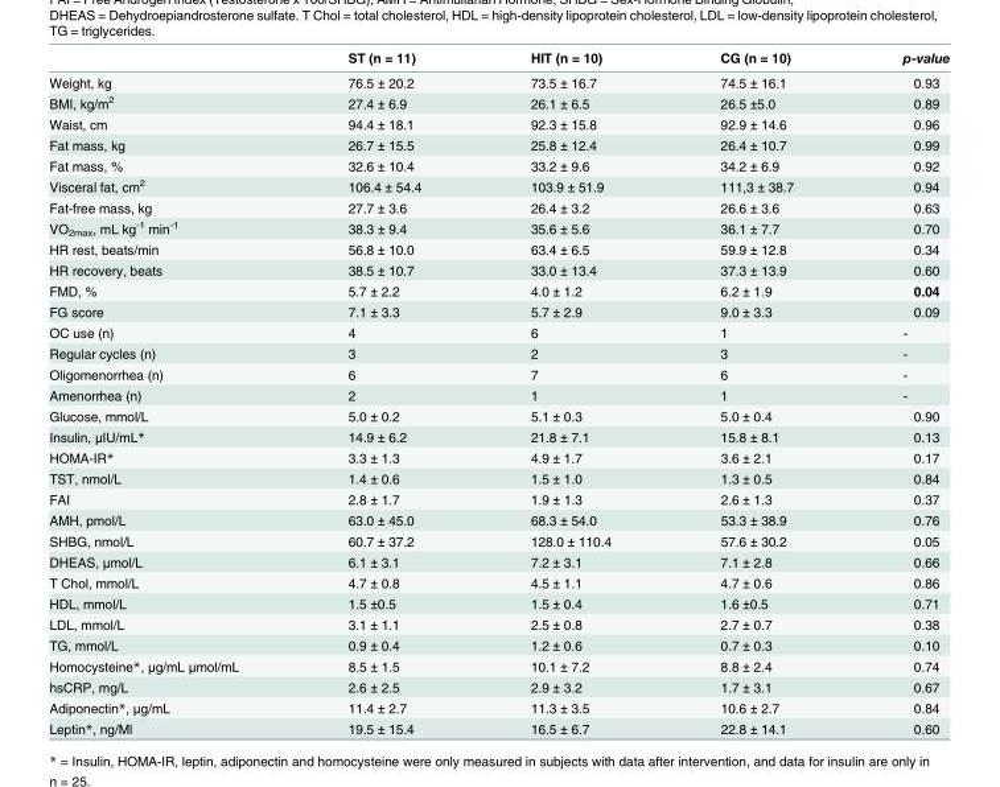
<table><thead><tr><td></td><td>ST (n = 11)</td><td>HIT (n = 10)</td><td>CG (n = 10)</td><td>p-value</td></tr></thead><tbody><tr><td>Weight, kg</td><td>76.5 ± 20.2</td><td>73.5 ± 16.7</td><td>74.5 ± 16.1</td><td>0.93</td></tr><tr><td>BMI, kg/m<sup>2</sup></td><td>27.4 ± 6.9</td><td>26.1 ± 6.5</td><td>26.5 ±5.0</td><td>0.89</td></tr><tr><td>Waist, cm</td><td>94.4 ± 18.1</td><td>92.3 ± 15.8</td><td>92.9 ± 14.6</td><td>0.96</td></tr><tr><td>Fat mass, kg</td><td>26.7 ± 15.5</td><td>25.8 ± 12.4</td><td>26.4 ± 10.7</td><td>0.99</td></tr><tr><td>Fat mass, %</td><td>32.6 ± 10.4</td><td>33.2 ± 9.6</td><td>34.2 ± 6.9</td><td>0.92</td></tr><tr><td>Visceral fat, cm<sup>2</sup></td><td>106.4 ± 54.4</td><td>103.9 ± 51.9</td><td>111,3 ± 38.7</td><td>0.94</td></tr><tr><td>Fat-free mass, kg</td><td>27.7 ± 3.6</td><td>26.4 ± 3.2</td><td>26.6 ± 3.6</td><td>0.63</td></tr><tr><td>VO<sub>2max</sub>, mL kg<sup>-1</sup> min<sup>-1</sup></td><td>38.3 ± 9.4</td><td>35.6 ± 5.6</td><td>36.1 ± 7.7</td><td>0.70</td></tr><tr><td>HR rest, beats/min</td><td>56.8 ± 10.0</td><td>63.4 ± 6.5</td><td>59.9 ± 12.8</td><td>0.34</td></tr><tr><td>HR recovery, beats</td><td>38.5 ± 10.7</td><td>33.0 ± 13.4</td><td>37.3 ± 13.9</td><td>0.60</td></tr><tr><td>FMD, %</td><td>5.7 ± 2.2</td><td>4.0 ± 1.2</td><td>6.2 ± 1.9</td><td>0.04</td></tr><tr><td>FG score</td><td>7.1 ± 3.3</td><td>5.7 ± 2.9</td><td>9.0 ± 3.3</td><td>0.09</td></tr><tr><td>OC use (n)</td><td>4</td><td>6</td><td>1</td><td>-</td></tr><tr><td>Regular cycles (n)</td><td>3</td><td>2</td><td>3</td><td>-</td></tr><tr><td>Oligomenorrhea (n)</td><td>6</td><td>7</td><td>6</td><td>-</td></tr><tr><td>Amenorrhea (n)</td><td>2</td><td>1</td><td>1</td><td>-</td></tr><tr><td>Glucose, mmol/L</td><td>5.0 ± 0.2</td><td>5.1 ± 0.3</td><td>5.0 ± 0.4</td><td>0.90</td></tr><tr><td>Insulin, μIU/mL*</td><td>14.9 ± 6.2</td><td>21.8 ± 7.1</td><td>15.8 ± 8.1</td><td>0.13</td></tr><tr><td>HOMA-IR*</td><td>3.3 ± 1.3</td><td>4.9 ± 1.7</td><td>3.6 ± 2.1</td><td>0.17</td></tr><tr><td>TST, nmol/L</td><td>1.4 ± 0.6</td><td>1.5 ± 1.0</td><td>1.3 ± 0.5</td><td>0.84</td></tr><tr><td>FAI</td><td>2.8 ± 1.7</td><td>1.9 ± 1.3</td><td>2.6 ± 1.3</td><td>0.37</td></tr><tr><td>AMH, pmol/L</td><td>63.0 ± 45.0</td><td>68.3 ± 54.0</td><td>53.3 ± 38.9</td><td>0.76</td></tr><tr><td>SHBG, nmol/L</td><td>60.7 ± 37.2</td><td>128.0 ± 110.4</td><td>57.6 ± 30.2</td><td>0.05</td></tr><tr><td>DHEAS, μmol/L</td><td>6.1 ± 3.1</td><td>7.2 ± 3.1</td><td>7.1 ± 2.8</td><td>0.66</td></tr><tr><td>T Chol, mmol/L</td><td>4.7 ± 0.8</td><td>4.5 ± 1.1</td><td>4.7 ± 0.6</td><td>0.86</td></tr><tr><td>HDL, mmol/L</td><td>1.5 ±0.5</td><td>1.5 ± 0.4</td><td>1.6 ±0.5</td><td>0.71</td></tr><tr><td>LDL, mmol/L</td><td>3.1 ± 1.1</td><td>2.5 ± 0.8</td><td>2.7 ± 0.7</td><td>0.38</td></tr><tr><td>TG, mmol/L</td><td>0.9 ± 0.4</td><td>1.2 ± 0.6</td><td>0.7 ± 0.3</td><td>0.10</td></tr><tr><td>Homocysteine*, μg/mL μmol/mL</td><td>8.5 ± 1.5</td><td>10.1 ± 7.2</td><td>8.8 ± 2.4</td><td>0.74</td></tr><tr><td>hsCRP, mg/L</td><td>2.6 ± 2.5</td><td>2.9 ± 3.2</td><td>1.7 ± 3.1</td><td>0.67</td></tr><tr><td>Adiponectin*, μg/mL</td><td>11.4 ± 2.7</td><td>11.3 ± 3.5</td><td>10.6 ± 2.7</td><td>0.84</td></tr><tr><td>Leptin*, ng/Ml</td><td>19.5 ± 15.4</td><td>16.5 ± 6.7</td><td>22.8 ± 14.1</td><td>0.60</td></tr></tbody></table>